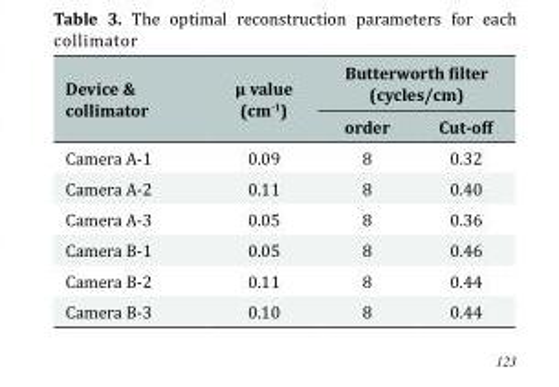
<table><thead><tr><td rowspan="2">Device &amp; collimator</td><td rowspan="2">μ value (cm<sup>-1</sup>)</td><td colspan="2">Butterworth filter (cycles/cm)</td></tr><tr><td>order</td><td>Cut-off</td></tr></thead><tbody><tr><td>Camera A-1</td><td>0.09</td><td>8</td><td>0.32</td></tr><tr><td>Camera A-2</td><td>0.11</td><td>8</td><td>0.40</td></tr><tr><td>Camera A-3</td><td>0.05</td><td>8</td><td>0.36</td></tr><tr><td>Camera B-1</td><td>0.05</td><td>8</td><td>0.46</td></tr><tr><td>Camera B-2</td><td>0.11</td><td>8</td><td>0.44</td></tr><tr><td>Camera B-3</td><td>0.10</td><td>8</td><td>0.44</td></tr></tbody></table>